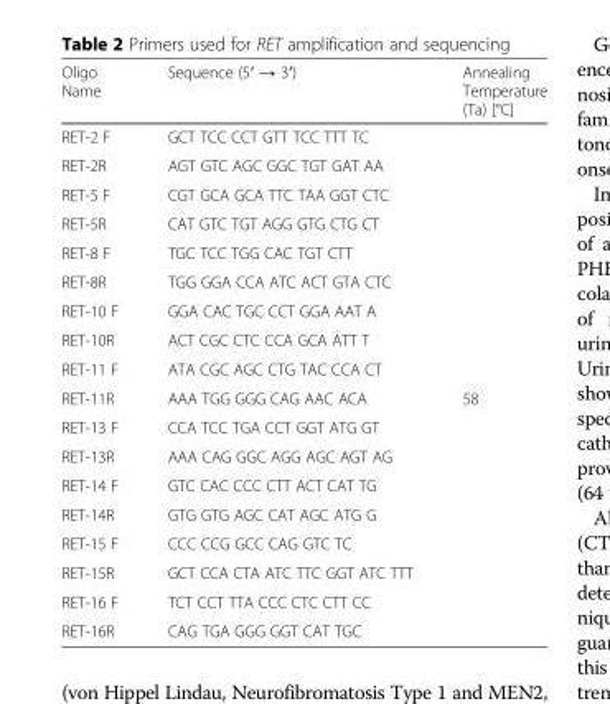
<table><thead><tr><td>Oligo Name</td><td>Sequence (5′ → 3′)</td><td>Annealing Temperature (Ta) [°C]</td></tr></thead><tbody><tr><td>RET-2 F</td><td>GCT TCC CCT GTT TCC TTT TC</td><td></td></tr><tr><td>RET-2R</td><td>AGT GTC AGC GGC TGT GAT AA</td><td></td></tr><tr><td>RET-5 F</td><td>CGT GCA GCA TTC TAA GGT CTC</td><td></td></tr><tr><td>RET-5R</td><td>CAT GTC TGT AGG GTG CTG CT</td><td></td></tr><tr><td>RET-8 F</td><td>TGC TCC TGG CAC TGT CTT</td><td></td></tr><tr><td>RET-8R</td><td>TGG GGA CCA ATC ACT GTA CTC</td><td></td></tr><tr><td>RET-10 F</td><td>GGA CAC TGC CCT GGA AAT A</td><td></td></tr><tr><td>RET-10R</td><td>ACT CGC CTC CCA GCA ATT T</td><td></td></tr><tr><td>RET-11 F</td><td>ATA CGC AGC CTG TAC CCA CT</td><td></td></tr><tr><td>RET-11R</td><td>AAA TGG GGG CAG AAC ACA</td><td>58</td></tr><tr><td>RET-13 F</td><td>CCA TCC TGA CCT GGT ATG GT</td><td></td></tr><tr><td>RET-13R</td><td>AAA CAG GGC AGG AGC AGT AG</td><td></td></tr><tr><td>RET-14 F</td><td>GTC CAC CCC CTT ACT CAT TG</td><td></td></tr><tr><td>RET-14R</td><td>GTG GTG AGC CAT AGC ATG G</td><td></td></tr><tr><td>RET-15 F</td><td>CCC CCG GCC CAG GTC TC</td><td></td></tr><tr><td>RET-15R</td><td>GCT CCA CTA ATC TTC GGT ATC TTT</td><td></td></tr><tr><td>RET-16 F</td><td>TCT CCT TTA CCC CTC CTT CC</td><td></td></tr><tr><td>RET-16R</td><td>CAG TGA GGG GGT CAT TGC</td><td></td></tr></tbody></table>